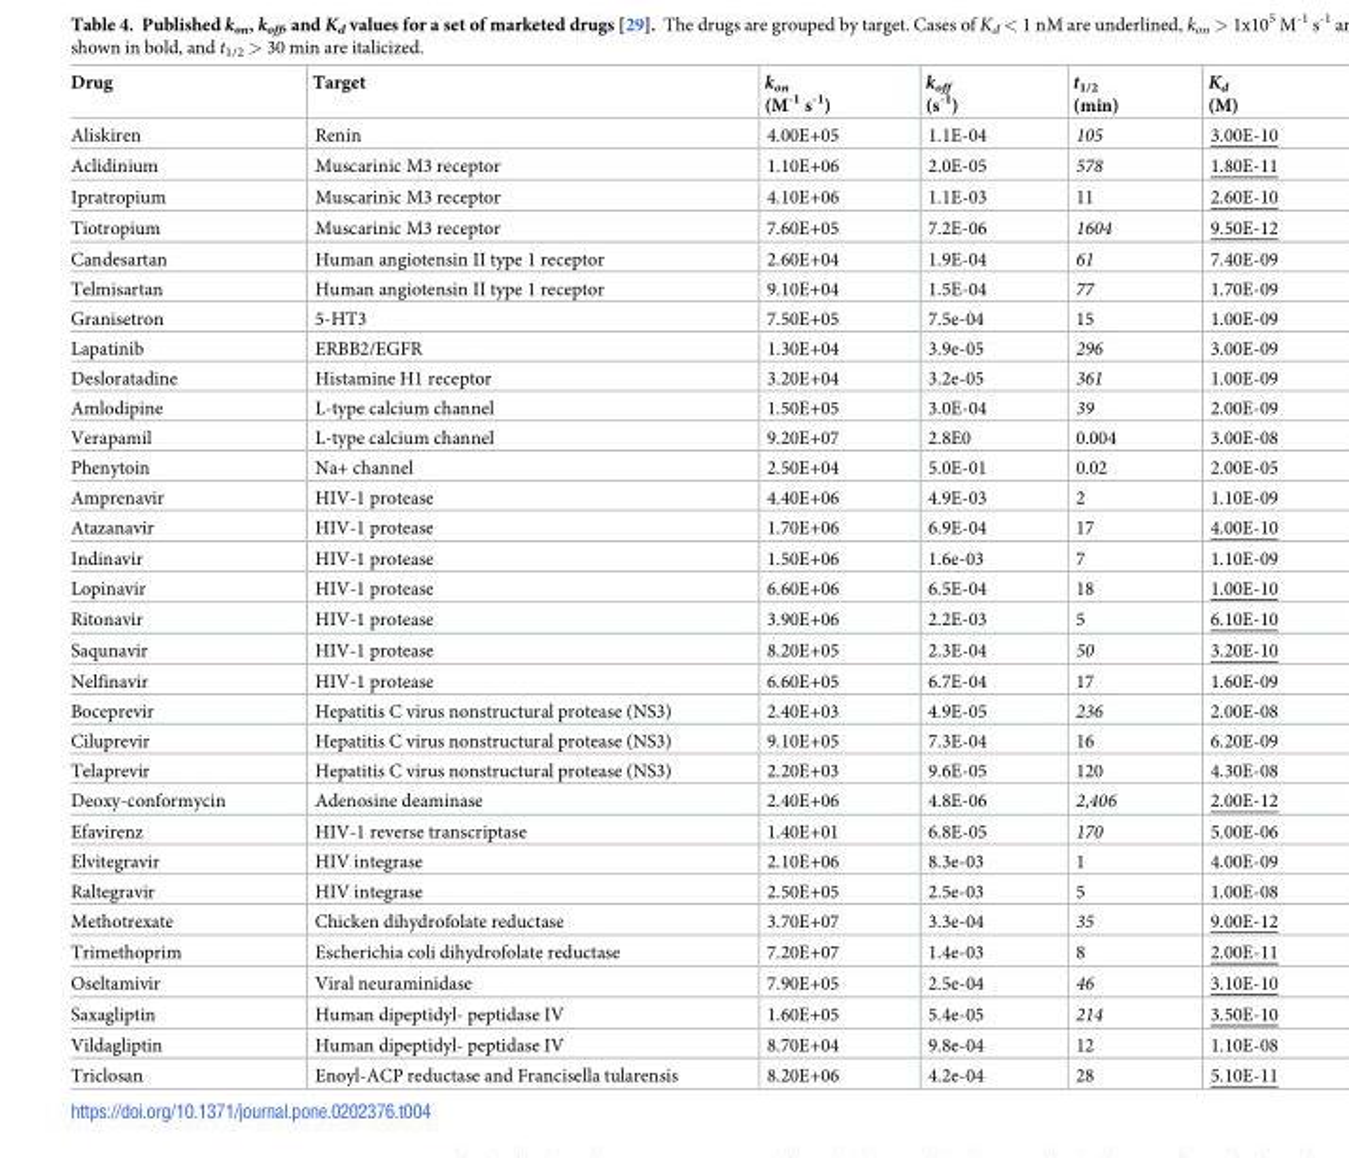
<table><thead><tr><td>Drug</td><td>Target</td><td>k<sub>on</sub> (M<sup>-1</sup> s<sup>-1</sup>)</td><td>k<sub>off</sub> (s<sup>-1</sup>)</td><td>t<sub>1/2</sub> (min)</td><td>K<sub>d</sub> (M)</td></tr></thead><tbody><tr><td>Aliskiren</td><td>Renin</td><td>4.00E+05</td><td>1.1E-04</td><td>105</td><td>3.00E-10</td></tr><tr><td>Aclidinium</td><td>Muscarinic M3 receptor</td><td>1.10E+06</td><td>2.0E-05</td><td>578</td><td>1.80E-11</td></tr><tr><td>Ipratropium</td><td>Muscarinic M3 receptor</td><td>4.10E+06</td><td>1.1E-03</td><td>11</td><td>2.60E-10</td></tr><tr><td>Tiotropium</td><td>Muscarinic M3 receptor</td><td>7.60E+05</td><td>7.2E-06</td><td>1604</td><td>9.50E-12</td></tr><tr><td>Candesartan</td><td>Human angiotensin II type 1 receptor</td><td>2.60E+04</td><td>1.9E-04</td><td>61</td><td>7.40E-09</td></tr><tr><td>Telmisartan</td><td>Human angiotensin II type 1 receptor</td><td>9.10E+04</td><td>1.5E-04</td><td>77</td><td>1.70E-09</td></tr><tr><td>Granisetron</td><td>5-HT3</td><td>7.50E+05</td><td>7.5e-04</td><td>15</td><td>1.00E-09</td></tr><tr><td>Lapatinib</td><td>ERBB2/EGFR</td><td>1.30E+04</td><td>3.9e-05</td><td>296</td><td>3.00E-09</td></tr><tr><td>Desloratadine</td><td>Histamine H1 receptor</td><td>3.20E+04</td><td>3.2e-05</td><td>361</td><td>1.00E-09</td></tr><tr><td>Amlodipine</td><td>L-type calcium channel</td><td>1.50E+05</td><td>3.0E-04</td><td>39</td><td>2.00E-09</td></tr><tr><td>Verapamil</td><td>L-type calcium channel</td><td>9.20E+07</td><td>2.8E0</td><td>0.004</td><td>3.00E-08</td></tr><tr><td>Phenytoin</td><td>Na+ channel</td><td>2.50E+04</td><td>5.0E-01</td><td>0.02</td><td>2.00E-05</td></tr><tr><td>Amprenavir</td><td>HIV-1 protease</td><td>4.40E+06</td><td>4.9E-03</td><td>2</td><td>1.10E-09</td></tr><tr><td>Atazanavir</td><td>HIV-1 protease</td><td>1.70E+06</td><td>6.9E-04</td><td>17</td><td>4.00E-10</td></tr><tr><td>Indinavir</td><td>HIV-1 protease</td><td>1.50E+06</td><td>1.6e-03</td><td>7</td><td>1.10E-09</td></tr><tr><td>Lopinavir</td><td>HIV-1 protease</td><td>6.60E+06</td><td>6.5E-04</td><td>18</td><td>1.00E-10</td></tr><tr><td>Ritonavir</td><td>HIV-1 protease</td><td>3.90E+06</td><td>2.2E-03</td><td>5</td><td>6.10E-10</td></tr><tr><td>Saqunavir</td><td>HIV-1 protease</td><td>8.20E+05</td><td>2.3E-04</td><td>50</td><td>3.20E-10</td></tr><tr><td>Nelfinavir</td><td>HIV-1 protease</td><td>6.60E+05</td><td>6.7E-04</td><td>17</td><td>1.60E-09</td></tr><tr><td>Boceprevir</td><td>Hepatitis C virus nonstructural protease (NS3)</td><td>2.40E+03</td><td>4.9E-05</td><td>236</td><td>2.00E-08</td></tr><tr><td>Ciluprevir</td><td>Hepatitis C virus nonstructural protease (NS3)</td><td>9.10E+05</td><td>7.3E-04</td><td>16</td><td>6.20E-09</td></tr><tr><td>Telaprevir</td><td>Hepatitis C virus nonstructural protease (NS3)</td><td>2.20E+03</td><td>9.6E-05</td><td>120</td><td>4.30E-08</td></tr><tr><td>Deoxy-conformycin</td><td>Adenosine deaminase</td><td>2.40E+06</td><td>4.8E-06</td><td>2,406</td><td>2.00E-12</td></tr><tr><td>Efavirenz</td><td>HIV-1 reverse transcriptase</td><td>1.40E+01</td><td>6.8E-05</td><td>170</td><td>5.00E-06</td></tr><tr><td>Elvitegravir</td><td>HIV integrase</td><td>2.10E+06</td><td>8.3e-03</td><td>1</td><td>4.00E-09</td></tr><tr><td>Raltegravir</td><td>HIV integrase</td><td>2.50E+05</td><td>2.5e-03</td><td>5</td><td>1.00E-08</td></tr><tr><td>Methotrexate</td><td>Chicken dihydrofolate reductase</td><td>3.70E+07</td><td>3.3e-04</td><td>35</td><td>9.00E-12</td></tr><tr><td>Trimethoprim</td><td>Escherichia coli dihydrofolate reductase</td><td>7.20E+07</td><td>1.4e-03</td><td>8</td><td>2.00E-11</td></tr><tr><td>Oseltamivir</td><td>Viral neuraminidase</td><td>7.90E+05</td><td>2.5e-04</td><td>46</td><td>3.10E-10</td></tr><tr><td>Saxagliptin</td><td>Human dipeptidyl- peptidase IV</td><td>1.60E+05</td><td>5.4e-05</td><td>214</td><td>3.50E-10</td></tr><tr><td>Vildagliptin</td><td>Human dipeptidyl- peptidase IV</td><td>8.70E+04</td><td>9.8e-04</td><td>12</td><td>1.10E-08</td></tr><tr><td>Triclosan</td><td>Enoyl-ACP reductase and Francisella tularensis</td><td>8.20E+06</td><td>4.2e-04</td><td>28</td><td>5.10E-11</td></tr></tbody></table>